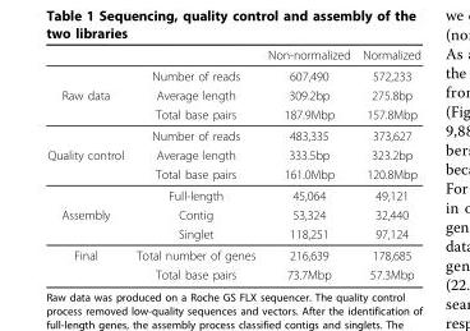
<table><thead><tr><td></td><td></td><td>Non-normalized</td><td>Normalized</td></tr></thead><tbody><tr><td></td><td>Number of reads</td><td>607,490</td><td>572,233</td></tr><tr><td rowspan="3">Raw data</td><td>Average length</td><td>309.2bp</td><td>275.8bp</td></tr><tr><td>Total base pairs</td><td>187.9Mbp</td><td>157.8Mbp</td></tr><tr><td>Number of reads</td><td>483,335</td><td>373,627</td></tr><tr><td rowspan="3">Quality control</td><td>Average length</td><td>333.5bp</td><td>323.2bp</td></tr><tr><td>Total base pairs</td><td>161.0Mbp</td><td>120.8Mbp</td></tr><tr><td>Full-length</td><td>45,064</td><td>49,121</td></tr><tr><td rowspan="2">Assembly</td><td>Contig</td><td>53,324</td><td>32,440</td></tr><tr><td>Singlet</td><td>118,251</td><td>97,124</td></tr><tr><td rowspan="2">Final</td><td>Total number of genes</td><td>216,639</td><td>178,685</td></tr><tr><td>Total base pairs</td><td>73.7Mbp</td><td>57.3Mbp</td></tr></tbody></table>